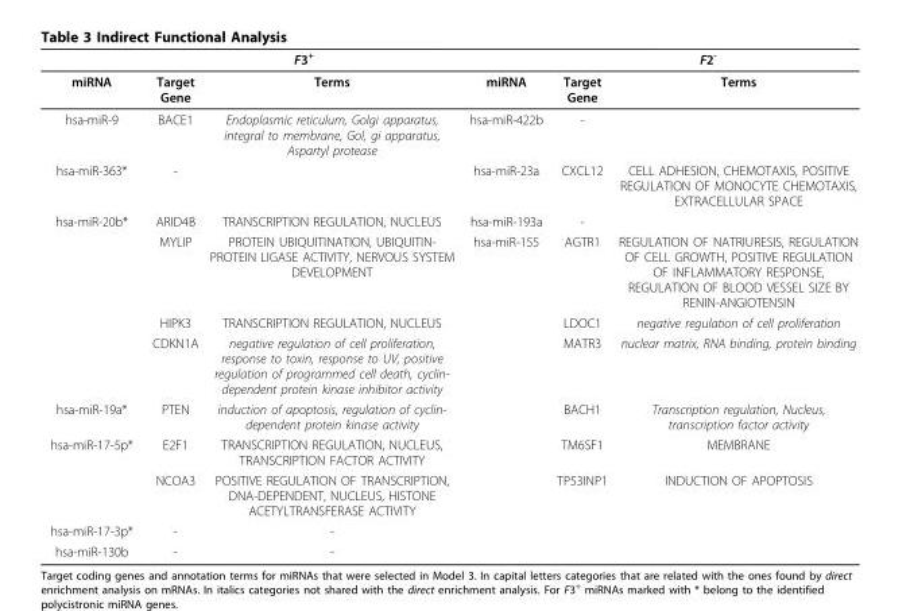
<table><thead><tr><td rowspan="2">miRNA</td><td colspan="2">F3<sup>+</sup></td><td rowspan="2">miRNA</td><td colspan="2">F2<sup>-</sup></td></tr><tr><td>Target Gene</td><td>Terms</td><td>Target Gene</td><td>Terms</td></tr></thead><tbody><tr><td>hsa-miR-9</td><td>BACE1</td><td>Endoplasmic reticulum, Golgi apparatus, integral to membrane, Gol, gi apparatus, Aspartyl protease</td><td>hsa-miR-422b</td><td>-</td><td></td></tr><tr><td>hsa-miR-363*</td><td>-</td><td></td><td>hsa-miR-23a</td><td>CXCL12</td><td>CELL ADHESION, CHEMOTAXIS, POSITIVE REGULATION OF MONOCYTE CHEMOTAXIS, EXTRACELLULAR SPACE</td></tr><tr><td rowspan="4">hsa-miR-20b*</td><td>ARID4B</td><td>TRANSCRIPTION REGULATION, NUCLEUS</td><td>hsa-miR-193a</td><td>-</td><td></td></tr><tr><td>MYLIP</td><td>PROTEIN UBIQUITINATION, UBIQUITIN- PROTEIN LIGASE ACTIVITY, NERVOUS SYSTEM DEVELOPMENT</td><td>hsa-miR-155</td><td>AGTR1</td><td>REGULATION OF NATRIURESIS, REGULATION OF CELL GROWTH, POSITIVE REGULATION OF INFLAMMATORY RESPONSE, REGULATION OF BLOOD VESSEL SIZE BY RENIN-ANGIOTENSIN</td></tr><tr><td>HIPK3</td><td>TRANSCRIPTION REGULATION, NUCLEUS</td><td></td><td>LDOC1</td><td>negative regulation of cell proliferation</td></tr><tr><td>CDKN1A</td><td>negative regulation of cell proliferation, response to toxin, response to UV, positive regulation of programmed cell death, cyclin- dependent protein kinase inhibitor activity</td><td></td><td>MATR3</td><td>nuclear matrix, RNA binding, protein binding</td></tr><tr><td>hsa-miR-19a*</td><td>PTEN</td><td>induction of apoptosis, regulation of cyclin- dependent protein kinase activity</td><td></td><td>BACH1</td><td>Transcription regulation, Nucleus, transcription factor activity</td></tr><tr><td rowspan="2">hsa-miR-17-5p*</td><td>E2F1</td><td>TRANSCRIPTION REGULATION, NUCLEUS, TRANSCRIPTION FACTOR ACTIVITY</td><td></td><td>TM6SF1</td><td>MEMBRANE</td></tr><tr><td>NCOA3</td><td>POSITIVE REGULATION OF TRANSCRIPTION, DNA-DEPENDENT, NUCLEUS, HISTONE ACETYLTRANSFERASE ACTIVITY</td><td></td><td>TP53INP1</td><td>INDUCTION OF APOPTOSIS</td></tr><tr><td>hsa-miR-17-3p*</td><td>-</td><td>-</td><td></td><td></td><td></td></tr><tr><td>hsa-miR-130b</td><td>-</td><td>-</td><td></td><td></td><td></td></tr></tbody></table>